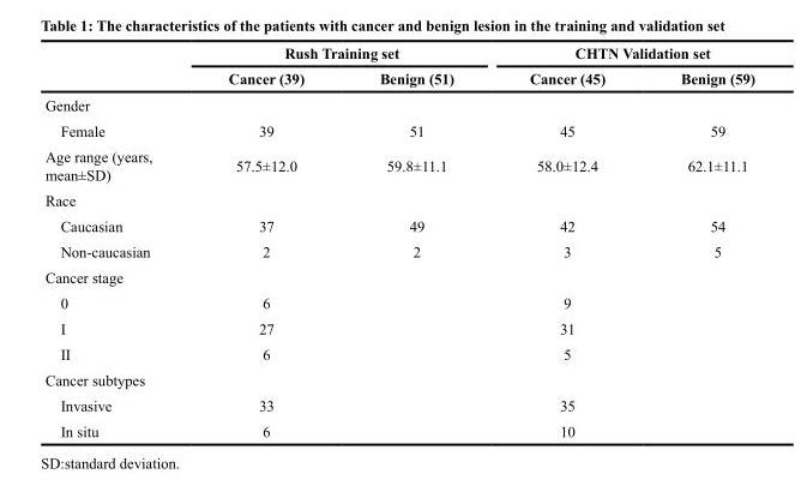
<table><thead><tr><td rowspan="2"></td><td colspan="2">Rush Training set</td><td colspan="2">CHTN Validation set</td></tr><tr><td>Cancer (39)</td><td>Benign (51)</td><td>Cancer (45)</td><td>Benign (59)</td></tr></thead><tbody><tr><td colspan="5">Gender</td></tr><tr><td>Female</td><td>39</td><td>51</td><td>45</td><td>59</td></tr><tr><td>Age range (years, mean±SD)</td><td>57.5±12.0</td><td>59.8±11.1</td><td>58.0±12.4</td><td>62.1±11.1</td></tr><tr><td colspan="5">Race</td></tr><tr><td>Caucasian</td><td>37</td><td>49</td><td>42</td><td>54</td></tr><tr><td>Non-caucasian</td><td>2</td><td>2</td><td>3</td><td>5</td></tr><tr><td colspan="5">Cancer stage</td></tr><tr><td>0</td><td>6</td><td></td><td>9</td><td></td></tr><tr><td>I</td><td>27</td><td></td><td>31</td><td></td></tr><tr><td>II</td><td>6</td><td></td><td>5</td><td></td></tr><tr><td colspan="5">Cancer subtypes</td></tr><tr><td>Invasive</td><td>33</td><td></td><td>35</td><td></td></tr><tr><td>In situ</td><td>6</td><td></td><td>10</td><td></td></tr></tbody></table>